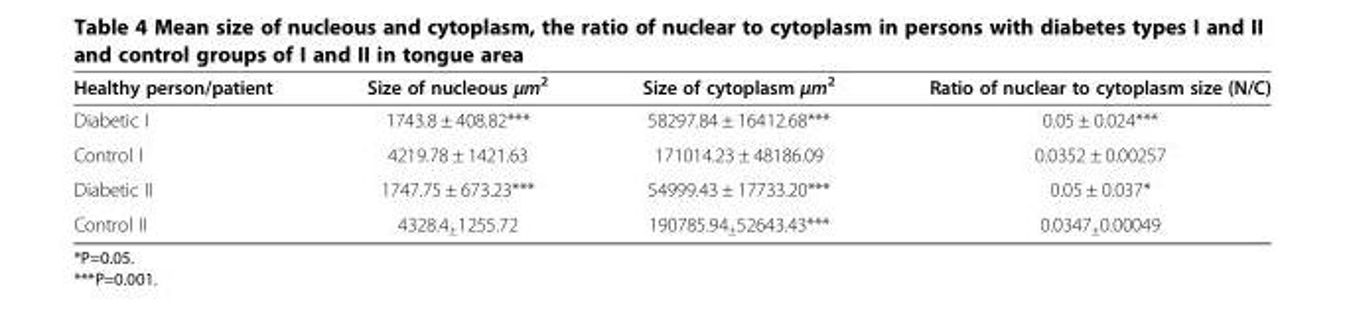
<table><thead><tr><td>Healthy person/patient</td><td>Size of nucleous μm<sup>2</sup></td><td>Size of cytoplasm μm<sup>2</sup></td><td>Ratio of nuclear to cytoplasm size (N/C)</td></tr></thead><tbody><tr><td>Diabetic I</td><td>1743.8 ± 408.82***</td><td>58297.84 ± 16412.68***</td><td>0.05 ± 0.024***</td></tr><tr><td>Control I</td><td>4219.78 ± 1421.63</td><td>171014.23 ± 48186.09</td><td>0.0352 ± 0.00257</td></tr><tr><td>Diabetic II</td><td>1747.75 ± 673.23***</td><td>54999.43 ± 17733.20***</td><td>0.05 ± 0.037*</td></tr><tr><td>Control II</td><td>4328.4<sub>±</sub>1255.72</td><td>190785.94<sub>±</sub>52643.43***</td><td>0.0347<sub>±</sub>0.00049</td></tr></tbody></table>